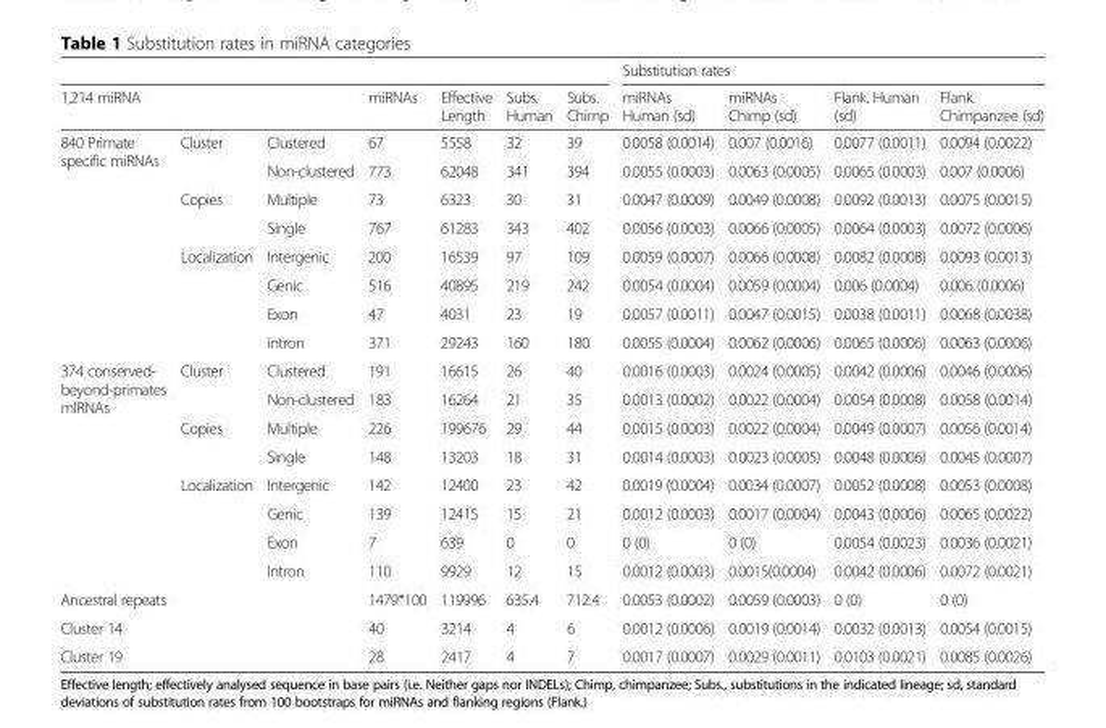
<table><thead><tr><td rowspan="2">1,214 miRNA</td><td rowspan="2"></td><td rowspan="2"></td><td rowspan="2">miRNAs</td><td rowspan="2">Effective Length</td><td rowspan="2">Subs. Human</td><td rowspan="2">Subs. Chimp</td><td colspan="4">Substitution rates</td></tr><tr><td>miRNAs Human (sd)</td><td>miRNAs Chimp (sd)</td><td>Flank. Human (sd)</td><td>Flank. Chimpanzee (sd)</td></tr></thead><tbody><tr><td rowspan="8">840 Primate specific miRNAs</td><td rowspan="2">Cluster</td><td>Clustered</td><td>67</td><td>5558</td><td>32</td><td>39</td><td>0.0058 (0.0014)</td><td>0.007 (0.0016)</td><td>0.0077 (0.0011)</td><td>0.0094 (0.0022)</td></tr><tr><td>Non-clustered</td><td>773</td><td>62048</td><td>341</td><td>394</td><td>0.0055 (0.0003)</td><td>0.0063 (0.0005)</td><td>0.0065 (0.0003)</td><td>0.007 (0.0006)</td></tr><tr><td rowspan="2">Copies</td><td>Multiple</td><td>73</td><td>6323</td><td>30</td><td>31</td><td>0.0047 (0.0009)</td><td>0.0049 (0.0008)</td><td>0.0092 (0.0013)</td><td>0.0075 (0.0015)</td></tr><tr><td>Single</td><td>767</td><td>61283</td><td>343</td><td>402</td><td>0.0056 (0.0003)</td><td>0.0066 (0.0005)</td><td>0.0064 (0.0003)</td><td>0.0072 (0.0006)</td></tr><tr><td rowspan="4">Localization</td><td>Intergenic</td><td>200</td><td>16539</td><td>97</td><td>109</td><td>0.0059 (0.0007)</td><td>0.0066 (0.0008)</td><td>0.0082 (0.0008)</td><td>0.0093 (0.0013)</td></tr><tr><td>Genic</td><td>516</td><td>40895</td><td>219</td><td>242</td><td>0.0054 (0.0004)</td><td>0.0059 (0.0004)</td><td>0.006 (0.0004)</td><td>0.006 (0.0006)</td></tr><tr><td>Exon</td><td>47</td><td>4031</td><td>23</td><td>19</td><td>0.0057 (0.0011)</td><td>0.0047 (0.0015)</td><td>0.0038 (0.0011)</td><td>0.0068 (0.0038)</td></tr><tr><td>intron</td><td>371</td><td>29243</td><td>160</td><td>180</td><td>0.0055 (0.0004)</td><td>0.0062 (0.0006)</td><td>0.0065 (0.0006)</td><td>0.0063 (0.0006)</td></tr><tr><td rowspan="8">374 conserved- beyond-primates mIRNAs</td><td rowspan="2">Cluster</td><td>Clustered</td><td>191</td><td>16615</td><td>26</td><td>40</td><td>0.0016 (0.0003)</td><td>0.0024 (0.0005)</td><td>0.0042 (0.0006)</td><td>0.0046 (0.0006)</td></tr><tr><td>Non-clustered</td><td>183</td><td>16264</td><td>21</td><td>35</td><td>0.0013 (0.0002)</td><td>0.0022 (0.0004)</td><td>0.0054 (0.0008)</td><td>0.0058 (0.0014)</td></tr><tr><td rowspan="2">Copies</td><td>Multiple</td><td>226</td><td>199676</td><td>29</td><td>44</td><td>0.0015 (0.0003)</td><td>0.0022 (0.0004)</td><td>0.0049 (0.0007)</td><td>0.0056 (0.0014)</td></tr><tr><td>Single</td><td>148</td><td>13203</td><td>18</td><td>31</td><td>0.0014 (0.0003)</td><td>0.0023 (0.0005)</td><td>0.0048 (0.0006)</td><td>0.0045 (0.0007)</td></tr><tr><td rowspan="4">Localization</td><td>Intergenic</td><td>142</td><td>12400</td><td>23</td><td>42</td><td>0.0019 (0.0004)</td><td>0.0034 (0.0007)</td><td>0.0052 (0.0008)</td><td>0.0053 (0.0008)</td></tr><tr><td>Genic</td><td>139</td><td>12415</td><td>15</td><td>21</td><td>0.0012 (0.0003)</td><td>0.0017 (0.0004)</td><td>0.0043 (0.0006)</td><td>0.0065 (0.0022)</td></tr><tr><td>Exon</td><td>7</td><td>639</td><td>0</td><td>0</td><td>0 (0)</td><td>0 (0)</td><td>0.0054 (0.0023)</td><td>0.0036 (0.0021)</td></tr><tr><td>Intron</td><td>110</td><td>9929</td><td>12</td><td>15</td><td>0.0012 (0.0003)</td><td>0.0015(0.0004)</td><td>0.0042 (0.0006)</td><td>0.0072 (0.0021)</td></tr><tr><td colspan="3">Ancestral repeats</td><td>1479*100</td><td>119996</td><td>635.4</td><td>712.4</td><td>0.0053 (0.0002)</td><td>0.0059 (0.0003)</td><td>0 (0)</td><td>0 (0)</td></tr><tr><td colspan="3">Cluster 14</td><td>40</td><td>3214</td><td>4</td><td>6</td><td>0.0012 (0.0006)</td><td>0.0019 (0.0014)</td><td>0.0032 (0.0013)</td><td>0.0054 (0.0015)</td></tr><tr><td colspan="3">Cluster 19</td><td>28</td><td>2417</td><td>4</td><td>7</td><td>0.0017 (0.0007)</td><td>0.0029 (0.0011)</td><td>0.0103 (0.0021)</td><td>0.0085 (0.0026)</td></tr></tbody></table>